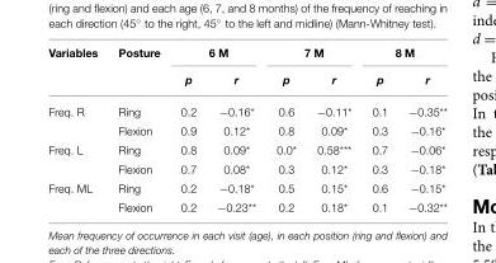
<table><thead><tr><td rowspan="2">Variables</td><td rowspan="2">Posture</td><td colspan="2">6 M</td><td colspan="2">7 M</td><td colspan="2">8 M</td></tr><tr><td>p</td><td>r</td><td>p</td><td>r</td><td>p</td><td>r</td></tr></thead><tbody><tr><td rowspan="2">Freq. R</td><td>Ring</td><td>0.2</td><td>−0.16*</td><td>0.6</td><td>−0.11*</td><td>0.1</td><td>−0.35**</td></tr><tr><td>Flexion</td><td>0.9</td><td>0.12*</td><td>0.8</td><td>0.09*</td><td>0.3</td><td>−0.16*</td></tr><tr><td rowspan="2">Freq. L</td><td>Ring</td><td>0.8</td><td>0.09*</td><td>0.0*</td><td>0.58***</td><td>0.7</td><td>−0.06*</td></tr><tr><td>Flexion</td><td>0.7</td><td>0.08*</td><td>0.3</td><td>0.12*</td><td>0.3</td><td>−0.18*</td></tr><tr><td rowspan="2">Freq. ML</td><td>Ring</td><td>0.2</td><td>−0.18*</td><td>0.5</td><td>0.15*</td><td>0.6</td><td>−0.15*</td></tr><tr><td>Flexion</td><td>0.2</td><td>−0.23**</td><td>0.2</td><td>0.18*</td><td>0.1</td><td>−0.32**</td></tr></tbody></table>